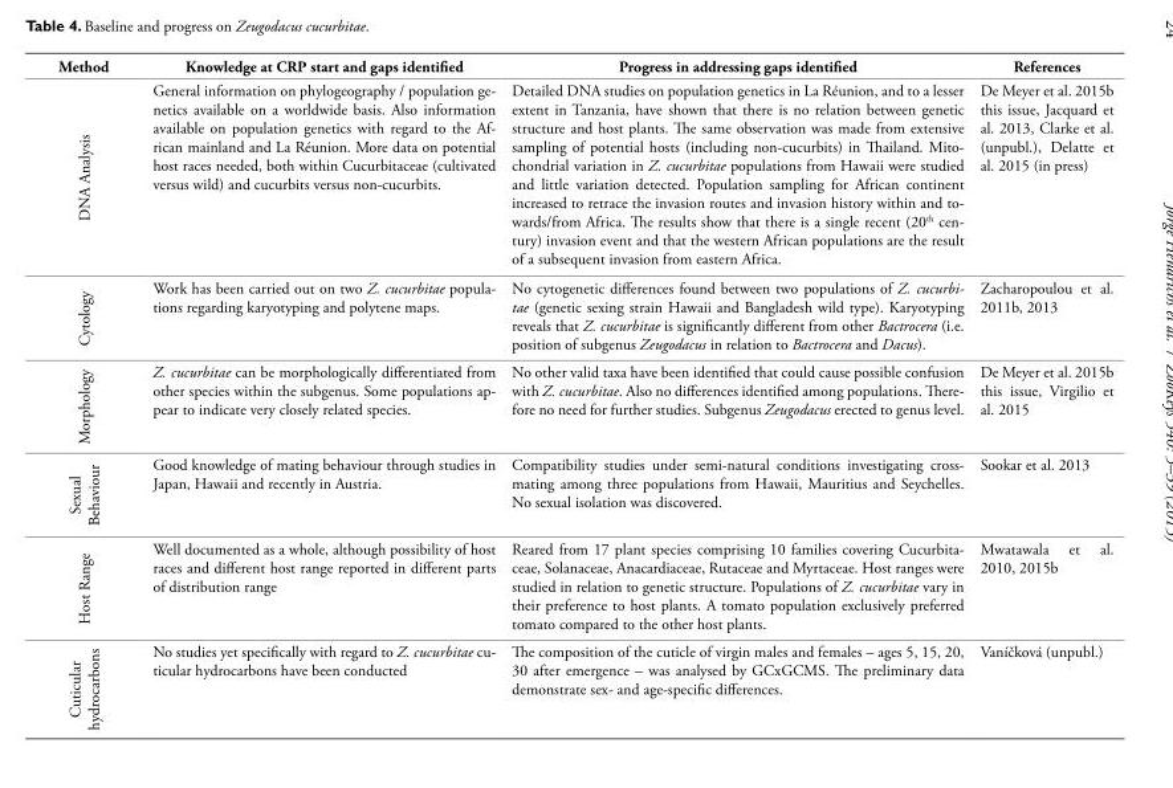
<table><thead><tr><td>Method</td><td>Knowledge at CRP start and gaps identified</td><td>Progress in addressing gaps identified</td><td>References</td></tr></thead><tbody><tr><td>DNA Analysis</td><td>General information on phylogeography / population ge- netics available on a worldwide basis. Also information available on population genetics with regard to the Af- rican mainland and La Réunion. More data on potential host races needed, both within Cucurbitaceae (cultivated versus wild) and cucurbits versus non-cucurbits.</td><td>Detailed DNA studies on population genetics in La Réunion, and to a lesser extent in Tanzania, have shown that there is no relation between genetic structure and host plants. The same observation was made from extensive sampling of potential hosts (including non-cucurbits) in Thailand. Mito- chondrial variation in Z. cucurbitae populations from Hawaii were studied and little variation detected. Population sampling for African continent increased to retrace the invasion routes and invasion history within and to- wards/from Africa. The results show that there is a single recent (20th cen- tury) invasion event and that the western African populations are the result of a subsequent invasion from eastern Africa.</td><td>De Meyer et al. 2015b this issue, Jacquard et al. 2013, Clarke et al. (unpubl.), Delatte et al. 2015 (in press)</td></tr><tr><td>Cytology</td><td>Work has been carried out on two Z. cucurbitae popula- tions regarding karyotyping and polytene maps.</td><td>No cytogenetic differences found between two populations of Z. cucurbi- tae (genetic sexing strain Hawaii and Bangladesh wild type). Karyotyping reveals that Z. cucurbitae is significantly different from other Bactrocera (i.e. position of subgenus Zeugodacus in relation to Bactrocera and Dacus).</td><td>Zacharopoulou et al. 2011b, 2013</td></tr><tr><td>Morphology</td><td>Z. cucurbitae can be morphologically differentiated from other species within the subgenus. Some populations ap- pear to indicate very closely related species.</td><td>No other valid taxa have been identified that could cause possible confusion with Z. cucurbitae. Also no differences identified among populations. There- fore no need for further studies. Subgenus Zeugodacus erected to genus level.</td><td>De Meyer et al. 2015b this issue, Virgilio et al. 2015</td></tr><tr><td>Sexual Behaviour</td><td>Good knowledge of mating behaviour through studies in Japan, Hawaii and recently in Austria.</td><td>Compatibility studies under semi-natural conditions investigating cross- mating among three populations from Hawaii, Mauritius and Seychelles. No sexual isolation was discovered.</td><td>Sookar et al. 2013</td></tr><tr><td>Host Range</td><td>Well documented as a whole, although possibility of host races and different host range reported in different parts of distribution range</td><td>Reared from 17 plant species comprising 10 families covering Cucurbita- ceae, Solanaceae, Anacardiaceae, Rutaceae and Myrtaceae. Host ranges were studied in relation to genetic structure. Populations of Z. cucurbitae vary in their preference to host plants. A tomato population exclusively preferred tomato compared to the other host plants.</td><td>Mwatawala et al. 2010, 2015b</td></tr><tr><td>Cuticular hydrocarbons</td><td>No studies yet specifically with regard to Z. cucurbitae cu- ticular hydrocarbons have been conducted</td><td>The composition of the cuticle of virgin males and females – ages 5, 15, 20, 30 after emergence – was analysed by GCxGCMS. The preliminary data demonstrate sex- and age-specific differences.</td><td>Vaníčková (unpubl.)</td></tr></tbody></table>